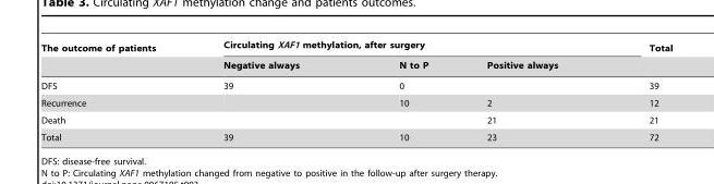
<table><thead><tr><td rowspan="2">The outcome of patients</td><td colspan="3">Circulating XAF1 methylation, after surgery</td><td rowspan="2">Total</td></tr><tr><td>Negative always</td><td>N to P</td><td>Positive always</td></tr></thead><tbody><tr><td>DFS</td><td>39</td><td>0</td><td></td><td>39</td></tr><tr><td>Recurrence</td><td></td><td>10</td><td>2</td><td>12</td></tr><tr><td>Death</td><td></td><td></td><td>21</td><td>21</td></tr><tr><td>Total</td><td>39</td><td>10</td><td>23</td><td>72</td></tr></tbody></table>